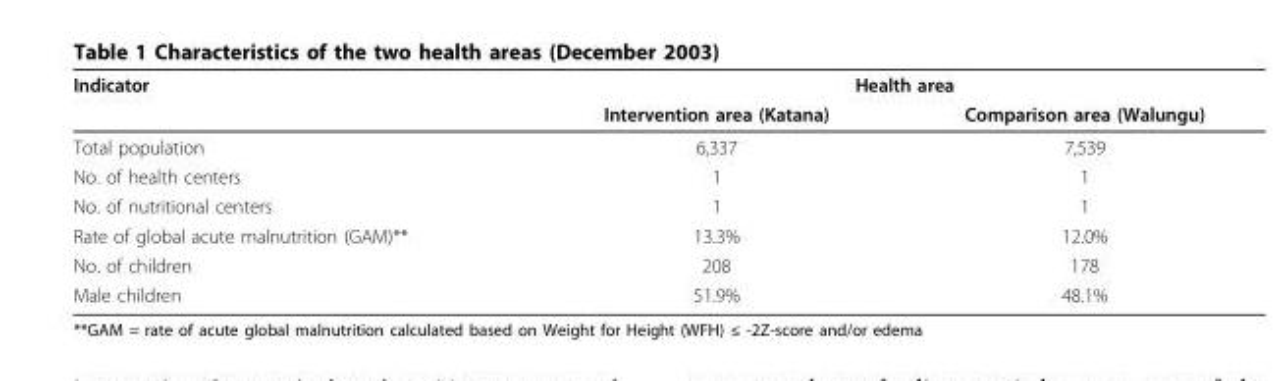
<table><thead><tr><td rowspan="2">Indicator</td><td colspan="2">Health area</td></tr><tr><td>Intervention area (Katana)</td><td>Comparison area (Walungu)</td></tr></thead><tbody><tr><td>Total population</td><td>6,337</td><td>7,539</td></tr><tr><td>No. of health centers</td><td>1</td><td>1</td></tr><tr><td>No. of nutritional centers</td><td>1</td><td>1</td></tr><tr><td>Rate of global acute malnutrition (GAM)**</td><td>13.3%</td><td>12.0%</td></tr><tr><td>No. of children</td><td>208</td><td>178</td></tr><tr><td>Male children</td><td>51.9%</td><td>48.1%</td></tr></tbody></table>